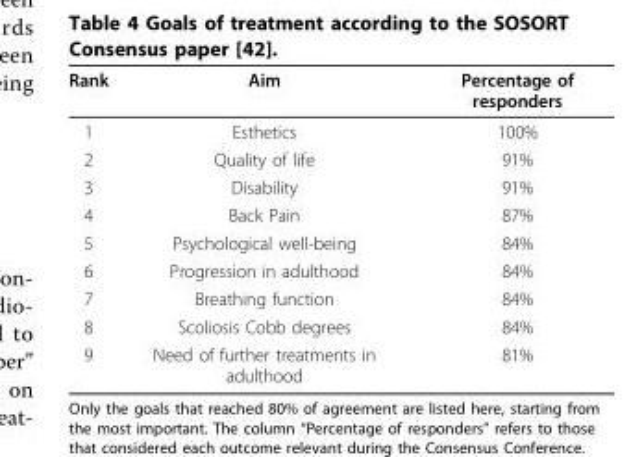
<table><thead><tr><td>Rank</td><td>Aim</td><td>Percentage of responders</td></tr></thead><tbody><tr><td>1</td><td>Esthetics</td><td>100%</td></tr><tr><td>2</td><td>Quality of life</td><td>91%</td></tr><tr><td>3</td><td>Disability</td><td>91%</td></tr><tr><td>4</td><td>Back Pain</td><td>87%</td></tr><tr><td>5</td><td>Psychological well-being</td><td>84%</td></tr><tr><td>6</td><td>Progression in adulthood</td><td>84%</td></tr><tr><td>7</td><td>Breathing function</td><td>84%</td></tr><tr><td>8</td><td>Scoliosis Cobb degrees</td><td>84%</td></tr><tr><td>9</td><td>Need of further treatments in adulthood</td><td>81%</td></tr></tbody></table>